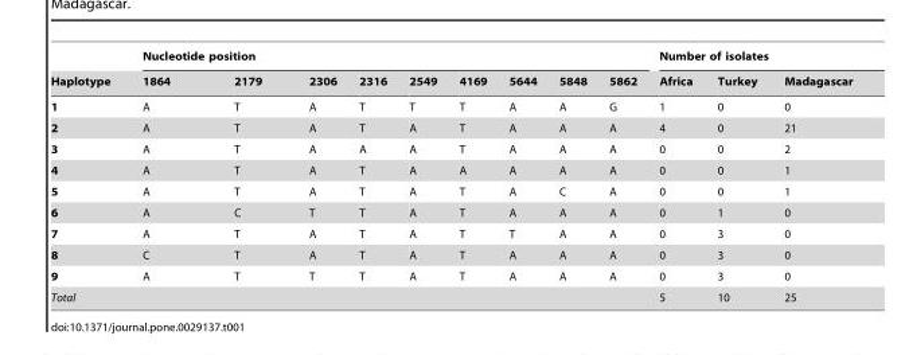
<table><thead><tr><td rowspan="2">Haplotype</td><td colspan="9">Nucleotide position</td><td colspan="3">Number of isolates</td></tr><tr><td>1864</td><td>2179</td><td>2306</td><td>2316</td><td>2549</td><td>4169</td><td>5644</td><td>5848</td><td>5862</td><td>Africa</td><td>Turkey</td><td>Madagascar</td></tr></thead><tbody><tr><td>1</td><td>A</td><td>T</td><td>A</td><td>T</td><td>T</td><td>T</td><td>A</td><td>A</td><td>G</td><td>1</td><td>0</td><td>0</td></tr><tr><td>2</td><td>A</td><td>T</td><td>A</td><td>T</td><td>A</td><td>T</td><td>A</td><td>A</td><td>A</td><td>4</td><td>0</td><td>21</td></tr><tr><td>3</td><td>A</td><td>T</td><td>A</td><td>A</td><td>A</td><td>T</td><td>A</td><td>A</td><td>A</td><td>0</td><td>0</td><td>2</td></tr><tr><td>4</td><td>A</td><td>T</td><td>A</td><td>T</td><td>A</td><td>A</td><td>A</td><td>A</td><td>A</td><td>0</td><td>0</td><td>1</td></tr><tr><td>5</td><td>A</td><td>T</td><td>A</td><td>T</td><td>A</td><td>T</td><td>A</td><td>C</td><td>A</td><td>0</td><td>0</td><td>1</td></tr><tr><td>6</td><td>A</td><td>C</td><td>T</td><td>T</td><td>A</td><td>T</td><td>A</td><td>A</td><td>A</td><td>0</td><td>1</td><td>0</td></tr><tr><td>7</td><td>A</td><td>T</td><td>A</td><td>T</td><td>A</td><td>T</td><td>T</td><td>A</td><td>A</td><td>0</td><td>3</td><td>0</td></tr><tr><td>8</td><td>C</td><td>T</td><td>A</td><td>T</td><td>A</td><td>T</td><td>A</td><td>A</td><td>A</td><td>0</td><td>3</td><td>0</td></tr><tr><td>9</td><td>A</td><td>T</td><td>T</td><td>T</td><td>A</td><td>T</td><td>A</td><td>A</td><td>A</td><td>0</td><td>3</td><td>0</td></tr><tr><td colspan="10">Total</td><td>5</td><td>10</td><td>25</td></tr></tbody></table>